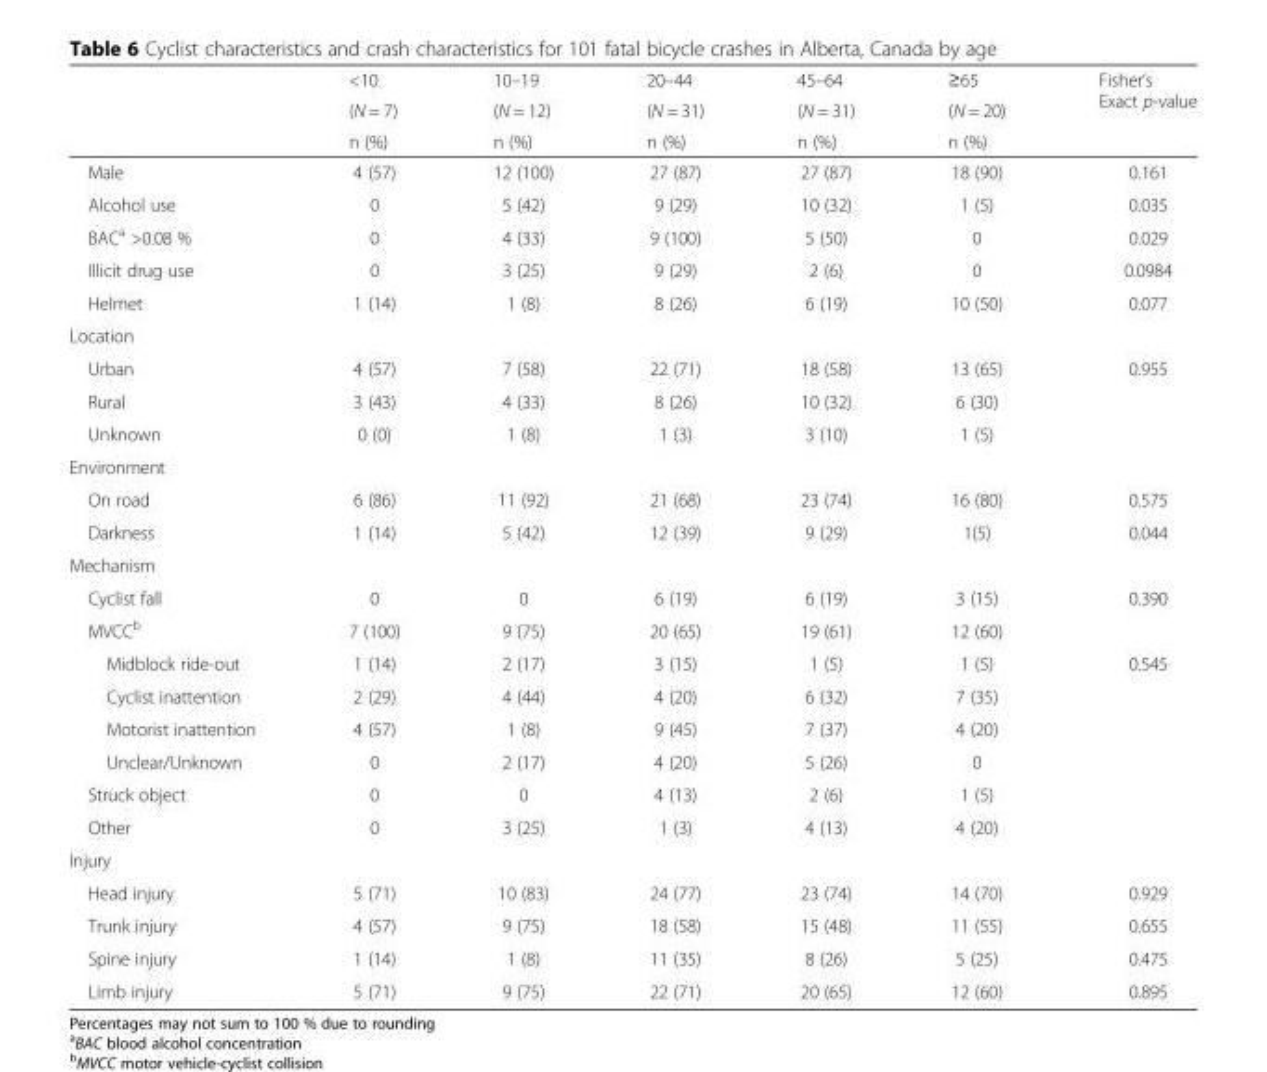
<table><thead><tr><td rowspan="3"></td><td rowspan="3">&lt;10 (N = 7) n (%)</td><td rowspan="3">10–19 (N = 12) n (%)</td><td rowspan="3">20–44 (N = 31) n (%)</td><td rowspan="3">45–64 (N = 31) n (%)</td><td rowspan="3">≥65 (N = 20) n (%)</td><td rowspan="3">Fisher’s Exact p-value</td></tr><tr></tr><tr></tr></thead><tbody><tr><td>Male</td><td>4 (57)</td><td>12 (100)</td><td>27 (87)</td><td>27 (87)</td><td>18 (90)</td><td>0.161</td></tr><tr><td>Alcohol use</td><td>0</td><td>5 (42)</td><td>9 (29)</td><td>10 (32)</td><td>1 (5)</td><td>0.035</td></tr><tr><td>BAC<sup>a</sup> &gt;0.08 %</td><td>0</td><td>4 (33)</td><td>9 (100)</td><td>5 (50)</td><td>0</td><td>0.029</td></tr><tr><td>Illicit drug use</td><td>0</td><td>3 (25)</td><td>9 (29)</td><td>2 (6)</td><td>0</td><td>0.0984</td></tr><tr><td>Helmet</td><td>1 (14)</td><td>1 (8)</td><td>8 (26)</td><td>6 (19)</td><td>10 (50)</td><td>0.077</td></tr><tr><td colspan="7">Location</td></tr><tr><td>Urban</td><td>4 (57)</td><td>7 (58)</td><td>22 (71)</td><td>18 (58)</td><td>13 (65)</td><td>0.955</td></tr><tr><td>Rural</td><td>3 (43)</td><td>4 (33)</td><td>8 (26)</td><td>10 (32)</td><td>6 (30)</td><td></td></tr><tr><td>Unknown</td><td>0 (0)</td><td>1 (8)</td><td>1 (3)</td><td>3 (10)</td><td>1 (5)</td><td></td></tr><tr><td colspan="7">Environment</td></tr><tr><td>On road</td><td>6 (86)</td><td>11 (92)</td><td>21 (68)</td><td>23 (74)</td><td>16 (80)</td><td>0.575</td></tr><tr><td>Darkness</td><td>1 (14)</td><td>5 (42)</td><td>12 (39)</td><td>9 (29)</td><td>1(5)</td><td>0.044</td></tr><tr><td colspan="7">Mechanism</td></tr><tr><td>Cyclist fall</td><td>0</td><td>0</td><td>6 (19)</td><td>6 (19)</td><td>3 (15)</td><td>0.390</td></tr><tr><td>MVCC<sup>b</sup></td><td>7 (100)</td><td>9 (75)</td><td>20 (65)</td><td>19 (61)</td><td>12 (60)</td><td></td></tr><tr><td>Midblock ride-out</td><td>1 (14)</td><td>2 (17)</td><td>3 (15)</td><td>1 (5)</td><td>1 (5)</td><td>0.545</td></tr><tr><td>Cyclist inattention</td><td>2 (29)</td><td>4 (44)</td><td>4 (20)</td><td>6 (32)</td><td>7 (35)</td><td></td></tr><tr><td>Motorist inattention</td><td>4 (57)</td><td>1 (8)</td><td>9 (45)</td><td>7 (37)</td><td>4 (20)</td><td></td></tr><tr><td>Unclear/Unknown</td><td>0</td><td>2 (17)</td><td>4 (20)</td><td>5 (26)</td><td>0</td><td></td></tr><tr><td>Struck object</td><td>0</td><td>0</td><td>4 (13)</td><td>2 (6)</td><td>1 (5)</td><td></td></tr><tr><td>Other</td><td>0</td><td>3 (25)</td><td>1 (3)</td><td>4 (13)</td><td>4 (20)</td><td></td></tr><tr><td colspan="7">Injury</td></tr><tr><td>Head injury</td><td>5 (71)</td><td>10 (83)</td><td>24 (77)</td><td>23 (74)</td><td>14 (70)</td><td>0.929</td></tr><tr><td>Trunk injury</td><td>4 (57)</td><td>9 (75)</td><td>18 (58)</td><td>15 (48)</td><td>11 (55)</td><td>0.655</td></tr><tr><td>Spine injury</td><td>1 (14)</td><td>1 (8)</td><td>11 (35)</td><td>8 (26)</td><td>5 (25)</td><td>0.475</td></tr><tr><td>Limb injury</td><td>5 (71)</td><td>9 (75)</td><td>22 (71)</td><td>20 (65)</td><td>12 (60)</td><td>0.895</td></tr></tbody></table>